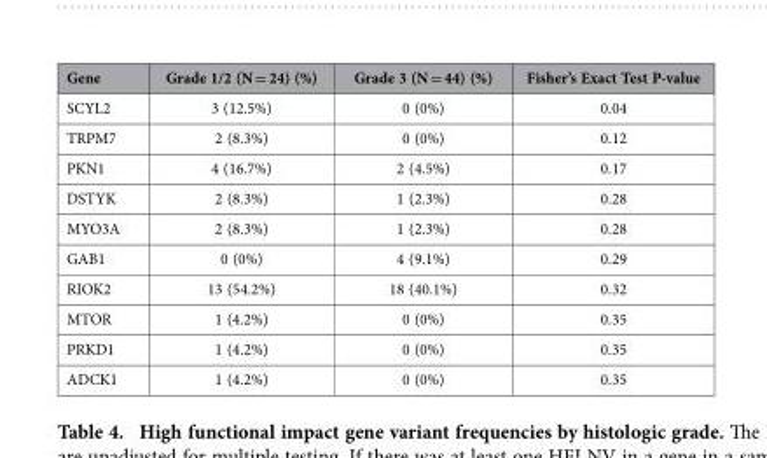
<table><thead><tr><td>Gene</td><td>Grade 1/2 (N = 24) (%)</td><td>Grade 3 (N = 44) (%)</td><td>Fisher’s Exact Test P-value</td></tr></thead><tbody><tr><td>SCYL2</td><td>3 (12.5%)</td><td>0 (0%)</td><td>0.04</td></tr><tr><td>TRPM7</td><td>2 (8.3%)</td><td>0 (0%)</td><td>0.12</td></tr><tr><td>PKN1</td><td>4 (16.7%)</td><td>2 (4.5%)</td><td>0.17</td></tr><tr><td>DSTYK</td><td>2 (8.3%)</td><td>1 (2.3%)</td><td>0.28</td></tr><tr><td>MYO3A</td><td>2 (8.3%)</td><td>1 (2.3%)</td><td>0.28</td></tr><tr><td>GAB1</td><td>0 (0%)</td><td>4 (9.1%)</td><td>0.29</td></tr><tr><td>RIOK2</td><td>13 (54.2%)</td><td>18 (40.1%)</td><td>0.32</td></tr><tr><td>MTOR</td><td>1 (4.2%)</td><td>0 (0%)</td><td>0.35</td></tr><tr><td>PRKD1</td><td>1 (4.2%)</td><td>0 (0%)</td><td>0.35</td></tr><tr><td>ADCK1</td><td>1 (4.2%)</td><td>0 (0%)</td><td>0.35</td></tr></tbody></table>